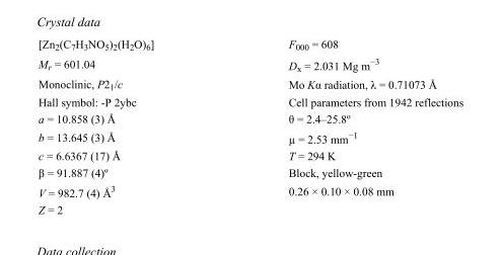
<table><tbody><tr><td>[Zn<sub>2</sub>(C<sub>7</sub>H<sub>3</sub>NO<sub>5</sub>)<sub>2</sub>(H<sub>2</sub>O)<sub>6</sub>]</td><td>F000 = 608</td></tr><tr><td>M<sub>r</sub> = 601.04</td><td>D<sub>x</sub> = 2.031 Mg m<sup>−3</sup></td></tr><tr><td>Monoclinic, P2<sub>1</sub>/c</td><td>Mo Kα radiation, λ = 0.71073 Å</td></tr><tr><td>Hall symbol: -P 2ybc</td><td>Cell parameters from 1942 reflections</td></tr><tr><td>a = 10.858 (3) Å</td><td>θ = 2.4–25.8º</td></tr><tr><td>b = 13.645 (3) Å</td><td>µ = 2.53 mm<sup>−1</sup></td></tr><tr><td>c = 6.6367 (17) Å</td><td>T = 294 K</td></tr><tr><td>β = 91.887 (4)º</td><td>Block, yellow-green</td></tr><tr><td>V = 982.7 (4) Å<sup>3</sup></td><td>0.26 × 0.10 × 0.08 mm</td></tr><tr><td>Z = 2</td><td></td></tr></tbody></table>